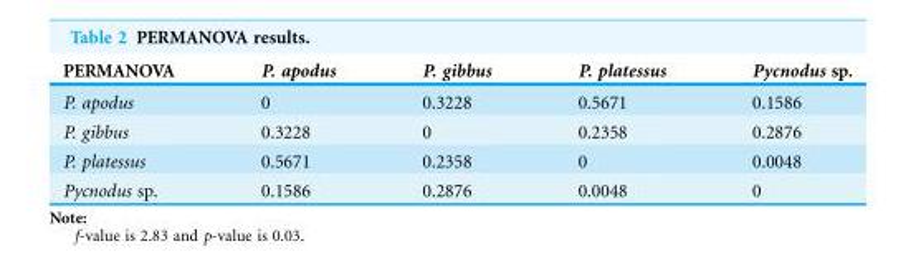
<table><thead><tr><td>PERMANOVA</td><td>P. apodus</td><td>P. gibbus</td><td>P. platessus</td><td>Pycnodus sp.</td></tr></thead><tbody><tr><td>P. apodus</td><td>0</td><td>0.3228</td><td>0.5671</td><td>0.1586</td></tr><tr><td>P. gibbus</td><td>0.3228</td><td>0</td><td>0.2358</td><td>0.2876</td></tr><tr><td>P. platessus</td><td>0.5671</td><td>0.2358</td><td>0</td><td>0.0048</td></tr><tr><td>Pycnodus sp.</td><td>0.1586</td><td>0.2876</td><td>0.0048</td><td>0</td></tr></tbody></table>